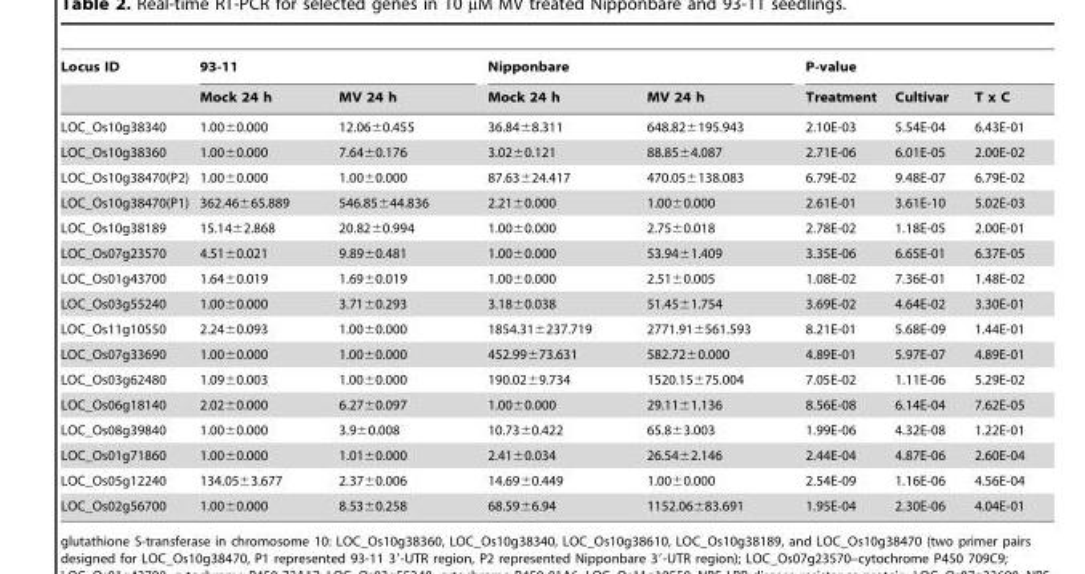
<table><thead><tr><td rowspan="2">Locus ID</td><td colspan="2">93-11</td><td colspan="2">Nipponbare</td><td colspan="3">P-value</td></tr><tr><td>Mock 24 h</td><td>MV 24 h</td><td>Mock 24 h</td><td>MV 24 h</td><td>Treatment</td><td>Cultivar</td><td>T x C</td></tr></thead><tbody><tr><td>LOC_Os10g38340</td><td>1.00±0.000</td><td>12.06±0.455</td><td>36.84±8.311</td><td>648.82±195.943</td><td>2.10E-03</td><td>5.54E-04</td><td>6.43E-01</td></tr><tr><td>LOC_Os10g38360</td><td>1.00±0.000</td><td>7.64±0.176</td><td>3.02±0.121</td><td>88.85±4.087</td><td>2.71E-06</td><td>6.01E-05</td><td>2.00E-02</td></tr><tr><td>LOC_Os10g38470(P2)</td><td>1.00±0.000</td><td>1.00±0.000</td><td>87.63±24.417</td><td>470.05±138.083</td><td>6.79E-02</td><td>9.48E-07</td><td>6.79E-02</td></tr><tr><td>LOC_Os10g38470(P1)</td><td>362.46±65.889</td><td>546.85±44.836</td><td>2.21±0.000</td><td>1.00±0.000</td><td>2.61E-01</td><td>3.61E-10</td><td>5.02E-03</td></tr><tr><td>LOC_Os10g38189</td><td>15.14±2.868</td><td>20.82±0.994</td><td>1.00±0.000</td><td>2.75±0.018</td><td>2.78E-02</td><td>1.18E-05</td><td>2.00E-01</td></tr><tr><td>LOC_Os07g23570</td><td>4.51±0.021</td><td>9.89±0.481</td><td>1.00±0.000</td><td>53.94±1.409</td><td>3.35E-06</td><td>6.65E-01</td><td>6.37E-05</td></tr><tr><td>LOC_Os01g43700</td><td>1.64±0.019</td><td>1.69±0.019</td><td>1.00±0.000</td><td>2.51±0.005</td><td>1.08E-02</td><td>7.36E-01</td><td>1.48E-02</td></tr><tr><td>LOC_Os03g55240</td><td>1.00±0.000</td><td>3.71±0.293</td><td>3.18±0.038</td><td>51.45±1.754</td><td>3.69E-02</td><td>4.64E-02</td><td>3.30E-01</td></tr><tr><td>LOC_Os11g10550</td><td>2.24±0.093</td><td>1.00±0.000</td><td>1854.31±237.719</td><td>2771.91±561.593</td><td>8.21E-01</td><td>5.68E-09</td><td>1.44E-01</td></tr><tr><td>LOC_Os07g33690</td><td>1.00±0.000</td><td>1.00±0.000</td><td>452.99±73.631</td><td>582.72±0.000</td><td>4.89E-01</td><td>5.97E-07</td><td>4.89E-01</td></tr><tr><td>LOC_Os03g62480</td><td>1.09±0.003</td><td>1.00±0.000</td><td>190.02±9.734</td><td>1520.15±75.004</td><td>7.05E-02</td><td>1.11E-06</td><td>5.29E-02</td></tr><tr><td>LOC_Os06g18140</td><td>2.02±0.000</td><td>6.27±0.097</td><td>1.00±0.000</td><td>29.11±1.136</td><td>8.56E-08</td><td>6.14E-04</td><td>7.62E-05</td></tr><tr><td>LOC_Os08g39840</td><td>1.00±0.000</td><td>3.9±0.008</td><td>10.73±0.422</td><td>65.8±3.003</td><td>1.99E-06</td><td>4.32E-08</td><td>1.22E-01</td></tr><tr><td>LOC_Os01g71860</td><td>1.00±0.000</td><td>1.01±0.000</td><td>2.41±0.034</td><td>26.54±2.146</td><td>2.44E-04</td><td>4.87E-06</td><td>2.60E-04</td></tr><tr><td>LOC_Os05g12240</td><td>134.05±3.677</td><td>2.37±0.006</td><td>14.69±0.449</td><td>1.00±0.000</td><td>2.54E-09</td><td>1.16E-06</td><td>4.56E-04</td></tr><tr><td>LOC_Os02g56700</td><td>1.00±0.000</td><td>8.53±0.258</td><td>68.59±6.94</td><td>1152.06±83.691</td><td>1.95E-04</td><td>2.30E-06</td><td>4.04E-01</td></tr></tbody></table>